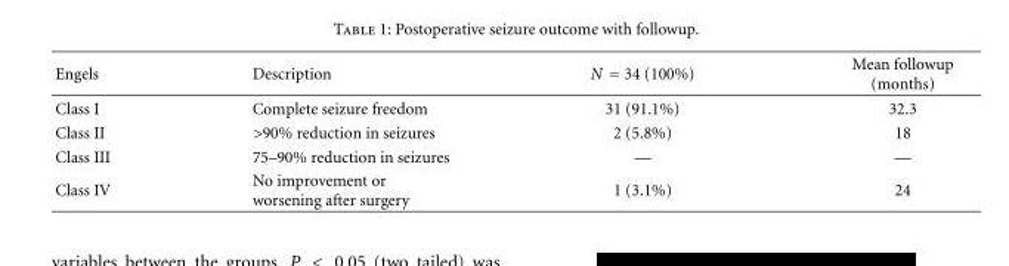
<table><thead><tr><td>Engels</td><td>Description</td><td>N = 34 (100%)</td><td>Mean followup (months)</td></tr></thead><tbody><tr><td>Class I</td><td>Complete seizure freedom</td><td>31 (91.1%)</td><td>32.3</td></tr><tr><td>Class II</td><td>&gt;90% reduction in seizures</td><td>2 (5.8%)</td><td>18</td></tr><tr><td>Class III</td><td>75–90% reduction in seizures</td><td>—</td><td>—</td></tr><tr><td>Class IV</td><td>No improvement or worsening after surgery</td><td>1 (3.1%)</td><td>24</td></tr></tbody></table>